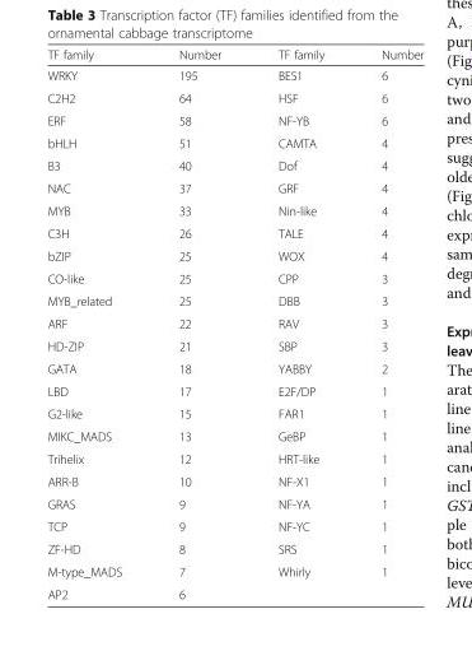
<table><thead><tr><td>TF family</td><td>Number</td><td>TF family</td><td>Number</td></tr></thead><tbody><tr><td>WRKY</td><td>195</td><td>BES1</td><td>6</td></tr><tr><td>C2H2</td><td>64</td><td>HSF</td><td>6</td></tr><tr><td>ERF</td><td>58</td><td>NF-YB</td><td>6</td></tr><tr><td>bHLH</td><td>51</td><td>CAMTA</td><td>4</td></tr><tr><td>B3</td><td>40</td><td>Dof</td><td>4</td></tr><tr><td>NAC</td><td>37</td><td>GRF</td><td>4</td></tr><tr><td>MYB</td><td>33</td><td>Nin-like</td><td>4</td></tr><tr><td>C3H</td><td>26</td><td>TALE</td><td>4</td></tr><tr><td>bZIP</td><td>25</td><td>WOX</td><td>4</td></tr><tr><td>CO-like</td><td>25</td><td>CPP</td><td>3</td></tr><tr><td>MYB_related</td><td>25</td><td>DBB</td><td>3</td></tr><tr><td>ARF</td><td>22</td><td>RAV</td><td>3</td></tr><tr><td>HD-ZIP</td><td>21</td><td>SBP</td><td>3</td></tr><tr><td>GATA</td><td>18</td><td>YABBY</td><td>2</td></tr><tr><td>LBD</td><td>17</td><td>E2F/DP</td><td>1</td></tr><tr><td>G2-like</td><td>15</td><td>FAR1</td><td>1</td></tr><tr><td>MIKC_MADS</td><td>13</td><td>GeBP</td><td>1</td></tr><tr><td>Trihelix</td><td>12</td><td>HRT-like</td><td>1</td></tr><tr><td>ARR-B</td><td>10</td><td>NF-X1</td><td>1</td></tr><tr><td>GRAS</td><td>9</td><td>NF-YA</td><td>1</td></tr><tr><td>TCP</td><td>9</td><td>NF-YC</td><td>1</td></tr><tr><td>ZF-HD</td><td>8</td><td>SRS</td><td>1</td></tr><tr><td>M-type_MADS</td><td>7</td><td>Whirly</td><td>1</td></tr><tr><td>AP2</td><td>6</td><td></td><td></td></tr></tbody></table>